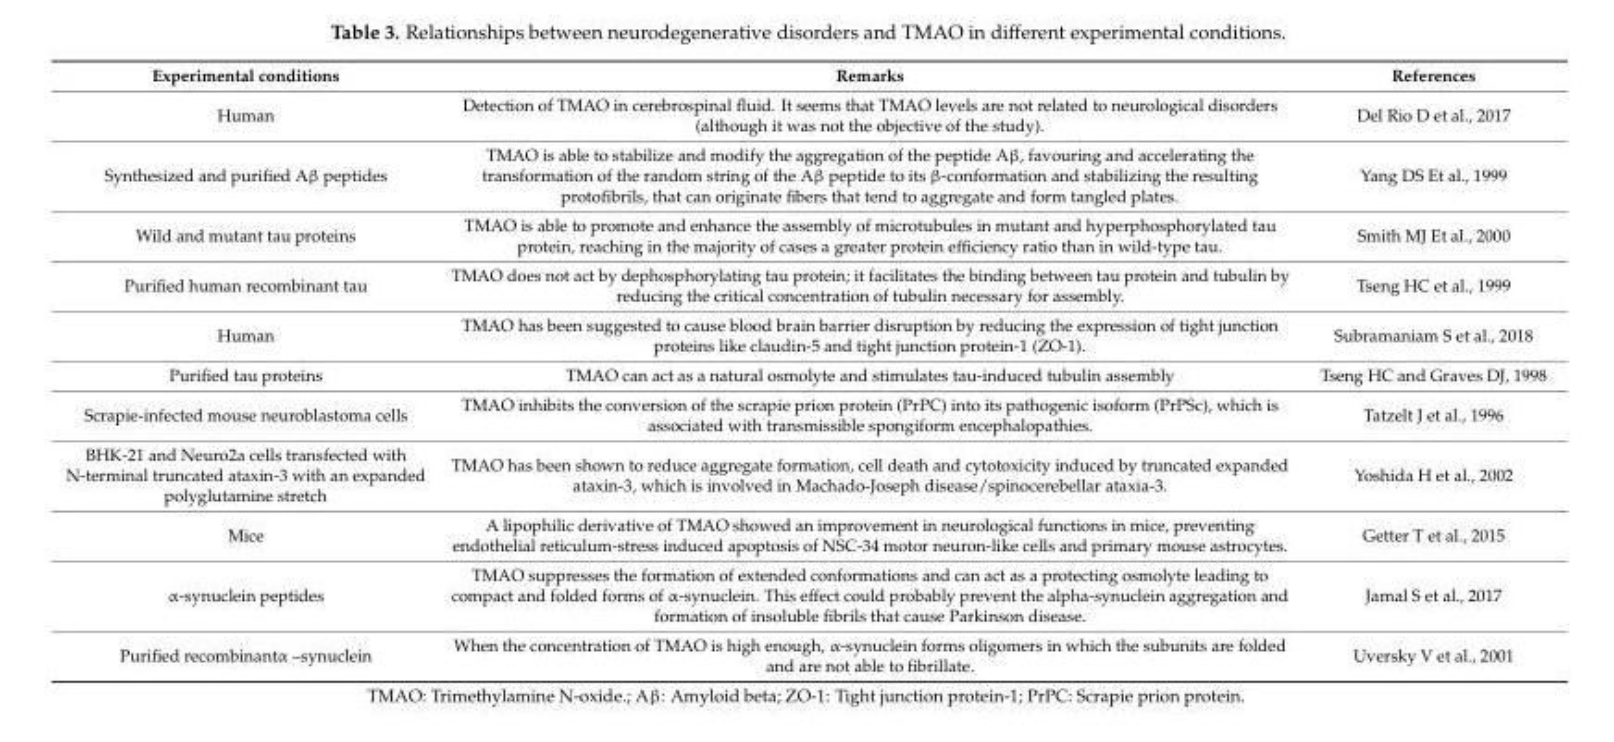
<table><thead><tr><td>Experimental conditions</td><td>Remarks</td><td>References</td></tr></thead><tbody><tr><td>Human</td><td>Detection of TMAO in cerebrospinal fluid. It seems that TMAO levels are not related to neurological disorders (although it was not the objective of the study).</td><td>Del Rio D et al., 2017</td></tr><tr><td>Synthesized and purified Aβ peptides</td><td>TMAO is able to stabilize and modify the aggregation of the peptide Aβ, favouring and accelerating the transformation of the random string of the Aβ peptide to its β-conformation and stabilizing the resulting protofibrils, that can originate fibers that tend to aggregate and form tangled plates.</td><td>Yang DS Et al., 1999</td></tr><tr><td>Wild and mutant tau proteins</td><td>TMAO is able to promote and enhance the assembly of microtubules in mutant and hyperphosphorylated tau protein, reaching in the majority of cases a greater protein efficiency ratio than in wild-type tau.</td><td>Smith MJ Et al., 2000</td></tr><tr><td>Purified human recombinant tau</td><td>TMAO does not act by dephosphorylating tau protein; it facilitates the binding between tau protein and tubulin by reducing the critical concentration of tubulin necessary for assembly.</td><td>Tseng HC et al., 1999</td></tr><tr><td>Human</td><td>TMAO has been suggested to cause blood brain barrier disruption by reducing the expression of tight junction proteins like claudin-5 and tight junction protein-1 (ZO-1).</td><td>Subramaniam S et al., 2018</td></tr><tr><td>Purified tau proteins</td><td>TMAO can act as a natural osmolyte and stimulates tau-induced tubulin assembly</td><td>Tseng HC and Graves DJ, 1998</td></tr><tr><td>Scrapie-infected mouse neuroblastoma cells</td><td>TMAO inhibits the conversion of the scrapie prion protein (PrPC) into its pathogenic isoform (PrPSc), which is associated with transmissible spongiform encephalopathies.</td><td>Tatzelt J et al., 1996</td></tr><tr><td>BHK-21 and Neuro2a cells transfected with N-terminal truncated ataxin-3 with an expanded polyglutamine stretch</td><td>TMAO has been shown to reduce aggregate formation, cell death and cytotoxicity induced by truncated expanded ataxin-3, which is involved in Machado-Joseph disease/spinocerebellar ataxia-3.</td><td>Yoshida H et al., 2002</td></tr><tr><td>Mice</td><td>A lipophilic derivative of TMAO showed an improvement in neurological functions in mice, preventing endothelial reticulum-stress induced apoptosis of NSC-34 motor neuron-like cells and primary mouse astrocytes.</td><td>Getter T et al., 2015</td></tr><tr><td>α-synuclein peptides</td><td>TMAO suppresses the formation of extended conformations and can act as a protecting osmolyte leading to compact and folded forms of α-synuclein. This effect could probably prevent the alpha-synuclein aggregation and formation of insoluble fibrils that cause Parkinson disease.</td><td>Jamal S et al., 2017</td></tr><tr><td>Purified recombinantα –synuclein</td><td>When the concentration of TMAO is high enough, α-synuclein forms oligomers in which the subunits are folded and are not able to fibrillate.</td><td>Uversky V et al., 2001</td></tr></tbody></table>